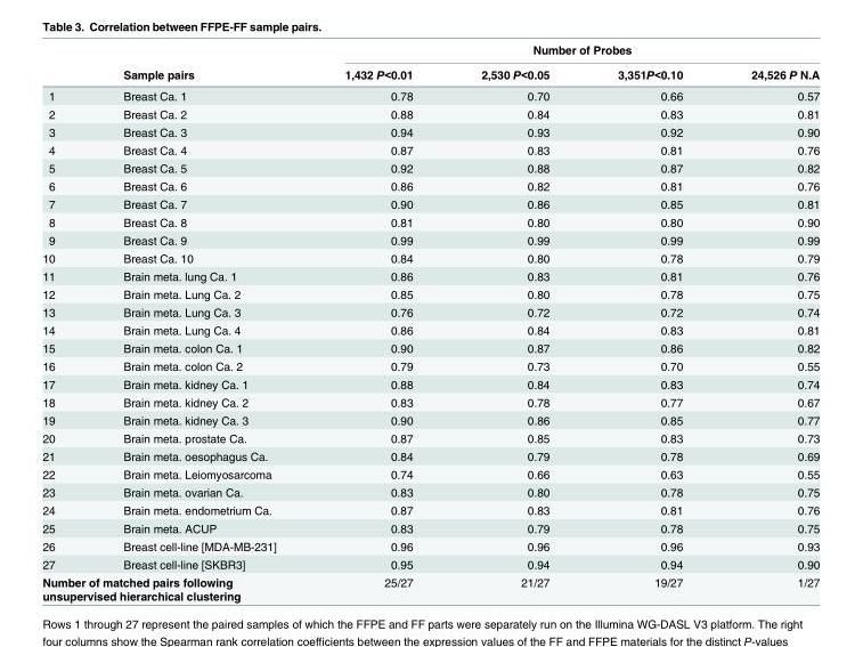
<table><thead><tr><td rowspan="2"></td><td rowspan="2">Sample pairs</td><td colspan="4">Number of Probes</td></tr><tr><td>1,432 P&lt;0.01</td><td>2,530 P&lt;0.05</td><td>3,351P&lt;0.10</td><td>24,526 P N.A</td></tr></thead><tbody><tr><td>1</td><td>Breast Ca. 1</td><td>0.78</td><td>0.70</td><td>0.66</td><td>0.57</td></tr><tr><td>2</td><td>Breast Ca. 2</td><td>0.88</td><td>0.84</td><td>0.83</td><td>0.81</td></tr><tr><td>3</td><td>Breast Ca. 3</td><td>0.94</td><td>0.93</td><td>0.92</td><td>0.90</td></tr><tr><td>4</td><td>Breast Ca. 4</td><td>0.87</td><td>0.83</td><td>0.81</td><td>0.76</td></tr><tr><td>5</td><td>Breast Ca. 5</td><td>0.92</td><td>0.88</td><td>0.87</td><td>0.82</td></tr><tr><td>6</td><td>Breast Ca. 6</td><td>0.86</td><td>0.82</td><td>0.81</td><td>0.76</td></tr><tr><td>7</td><td>Breast Ca. 7</td><td>0.90</td><td>0.86</td><td>0.85</td><td>0.81</td></tr><tr><td>8</td><td>Breast Ca. 8</td><td>0.81</td><td>0.80</td><td>0.80</td><td>0.90</td></tr><tr><td>9</td><td>Breast Ca. 9</td><td>0.99</td><td>0.99</td><td>0.99</td><td>0.99</td></tr><tr><td>10</td><td>Breast Ca. 10</td><td>0.84</td><td>0.80</td><td>0.78</td><td>0.79</td></tr><tr><td>11</td><td>Brain meta. lung Ca. 1</td><td>0.86</td><td>0.83</td><td>0.81</td><td>0.76</td></tr><tr><td>12</td><td>Brain meta. Lung Ca. 2</td><td>0.85</td><td>0.80</td><td>0.78</td><td>0.75</td></tr><tr><td>13</td><td>Brain meta. Lung Ca. 3</td><td>0.76</td><td>0.72</td><td>0.72</td><td>0.74</td></tr><tr><td>14</td><td>Brain meta. Lung Ca. 4</td><td>0.86</td><td>0.84</td><td>0.83</td><td>0.81</td></tr><tr><td>15</td><td>Brain meta. colon Ca. 1</td><td>0.90</td><td>0.87</td><td>0.86</td><td>0.82</td></tr><tr><td>16</td><td>Brain meta. colon Ca. 2</td><td>0.79</td><td>0.73</td><td>0.70</td><td>0.55</td></tr><tr><td>17</td><td>Brain meta. kidney Ca. 1</td><td>0.88</td><td>0.84</td><td>0.83</td><td>0.74</td></tr><tr><td>18</td><td>Brain meta. kidney Ca. 2</td><td>0.83</td><td>0.78</td><td>0.77</td><td>0.67</td></tr><tr><td>19</td><td>Brain meta. kidney Ca. 3</td><td>0.90</td><td>0.86</td><td>0.85</td><td>0.77</td></tr><tr><td>20</td><td>Brain meta. prostate Ca.</td><td>0.87</td><td>0.85</td><td>0.83</td><td>0.73</td></tr><tr><td>21</td><td>Brain meta. oesophagus Ca.</td><td>0.84</td><td>0.79</td><td>0.78</td><td>0.69</td></tr><tr><td>22</td><td>Brain meta. Leiomyosarcoma</td><td>0.74</td><td>0.66</td><td>0.63</td><td>0.55</td></tr><tr><td>23</td><td>Brain meta. ovarian Ca.</td><td>0.83</td><td>0.80</td><td>0.78</td><td>0.75</td></tr><tr><td>24</td><td>Brain meta. endometrium Ca.</td><td>0.87</td><td>0.83</td><td>0.81</td><td>0.76</td></tr><tr><td>25</td><td>Brain meta. ACUP</td><td>0.83</td><td>0.79</td><td>0.78</td><td>0.75</td></tr><tr><td>26</td><td>Breast cell-line [MDA-MB-231]</td><td>0.96</td><td>0.96</td><td>0.96</td><td>0.93</td></tr><tr><td>27</td><td>Breast cell-line [SKBR3]</td><td>0.95</td><td>0.94</td><td>0.94</td><td>0.90</td></tr><tr><td colspan="2">Number of matched pairs following unsupervised hierarchical clustering</td><td>25/27</td><td>21/27</td><td>19/27</td><td>1/27</td></tr></tbody></table>